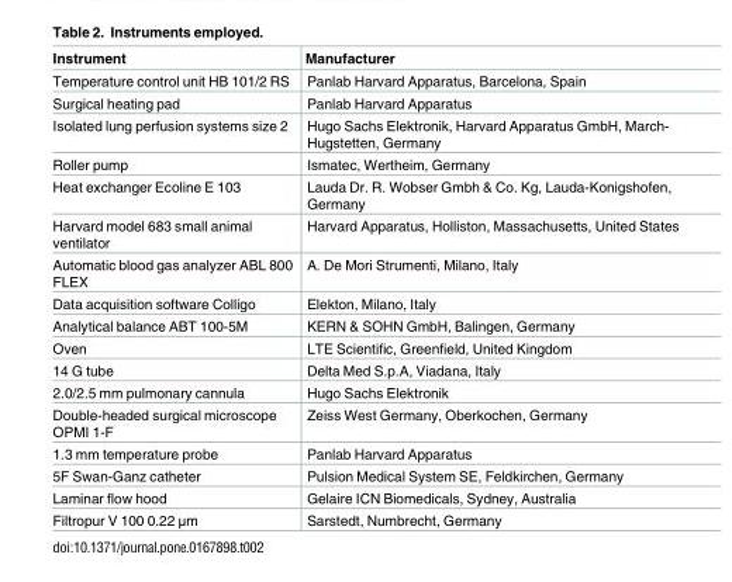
<table><thead><tr><td>Instrument</td><td>Manufacturer</td></tr></thead><tbody><tr><td>Temperature control unit HB 101/2 RS</td><td>Panlab Harvard Apparatus, Barcelona, Spain</td></tr><tr><td>Surgical heating pad</td><td>Panlab Harvard Apparatus</td></tr><tr><td>Isolated lung perfusion systems size 2</td><td>Hugo Sachs Elektronik, Harvard Apparatus GmbH, March- Hugstetten, Germany</td></tr><tr><td>Roller pump</td><td>Ismatec, Wertheim, Germany</td></tr><tr><td>Heat exchanger Ecoline E 103</td><td>Lauda Dr. R. Wobser Gmbh &amp; Co. Kg, Lauda-Konigshofen, Germany</td></tr><tr><td>Harvard model 683 small animal ventilator</td><td>Harvard Apparatus, Holliston, Massachusetts, United States</td></tr><tr><td>Automatic blood gas analyzer ABL 800 FLEX</td><td>A. De Mori Strumenti, Milano, Italy</td></tr><tr><td>Data acquisition software Colligo</td><td>Elekton, Milano, Italy</td></tr><tr><td>Analytical balance ABT 100-5M</td><td>KERN &amp; SOHN GmbH, Balingen, Germany</td></tr><tr><td>Oven</td><td>LTE Scientific, Greenfield, United Kingdom</td></tr><tr><td>14 G tube</td><td>Delta Med S.p.A, Viadana, Italy</td></tr><tr><td>2.0/2.5 mm pulmonary cannula</td><td>Hugo Sachs Elektronik</td></tr><tr><td>Double-headed surgical microscope OPMI 1-F</td><td>Zeiss West Germany, Oberkochen, Germany</td></tr><tr><td>1.3 mm temperature probe</td><td>Panlab Harvard Apparatus</td></tr><tr><td>5F Swan-Ganz catheter</td><td>Pulsion Medical System SE, Feldkirchen, Germany</td></tr><tr><td>Laminar flow hood</td><td>Gelaire ICN Biomedicals, Sydney, Australia</td></tr><tr><td>Filtropur V 100 0.22 μm</td><td>Sarstedt, Numbrecht, Germany</td></tr></tbody></table>